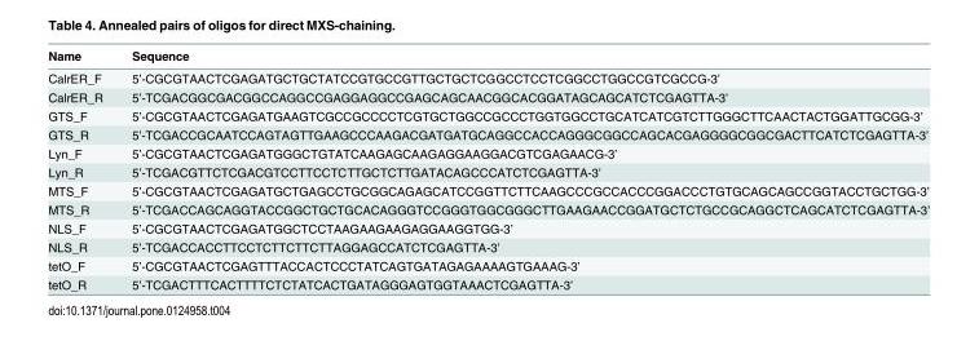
<table><thead><tr><td>Name</td><td>Sequence</td></tr></thead><tbody><tr><td>CalrER_F</td><td>5’-CGCGTAACTCGAGATGCTGCTATCCGTGCCGTTGCTGCTCGGCCTCCTCGGCCTGGCCGTCGCCG-3’</td></tr><tr><td>CalrER_R</td><td>5’-TCGACGGCGACGGCCAGGCCGAGGAGGCCGAGCAGCAACGGCACGGATAGCAGCATCTCGAGTTA-3’</td></tr><tr><td>GTS_F</td><td>5’-CGCGTAACTCGAGATGAAGTCGCCGCCCCTCGTGCTGGCCGCCCTGGTGGCCTGCATCATCGTCTTGGGCTTCAACTACTGGATTGCGG-3’</td></tr><tr><td>GTS_R</td><td>5’-TCGACCGCAATCCAGTAGTTGAAGCCCAAGACGATGATGCAGGCCACCAGGGCGGCCAGCACGAGGGGCGGCGACTTCATCTCGAGTTA-3’</td></tr><tr><td>Lyn_F</td><td>5’-CGCGTAACTCGAGATGGGCTGTATCAAGAGCAAGAGGAAGGACGTCGAGAACG-3’</td></tr><tr><td>Lyn_R</td><td>5’-TCGACGTTCTCGACGTCCTTCCTCTTGCTCTTGATACAGCCCATCTCGAGTTA-3’</td></tr><tr><td>MTS_F</td><td>5’-CGCGTAACTCGAGATGCTGAGCCTGCGGCAGAGCATCCGGTTCTTCAAGCCCGCCACCCGGACCCTGTGCAGCAGCCGGTACCTGCTGG-3’</td></tr><tr><td>MTS_R</td><td>5’-TCGACCAGCAGGTACCGGCTGCTGCACAGGGTCCGGGTGGCGGGCTTGAAGAACCGGATGCTCTGCCGCAGGCTCAGCATCTCGAGTTA-3’</td></tr><tr><td>NLS_F</td><td>5’-CGCGTAACTCGAGATGGCTCCTAAGAAGAAGAGGAAGGTGG-3’</td></tr><tr><td>NLS_R</td><td>5’-TCGACCACCTTCCTCTTCTTCTTAGGAGCCATCTCGAGTTA-3’</td></tr><tr><td>tetO_F</td><td>5’-CGCGTAACTCGAGTTTACCACTCCCTATCAGTGATAGAGAAAAGTGAAAG-3’</td></tr><tr><td>tetO_R</td><td>5’-TCGACTTTCACTTTTCTCTATCACTGATAGGGAGTGGTAAACTCGAGTTA-3’</td></tr></tbody></table>